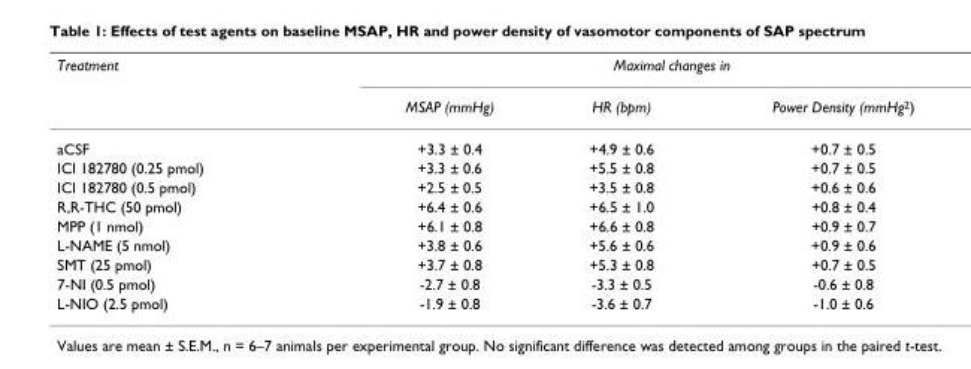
<table><thead><tr><td rowspan="2">Treatment</td><td colspan="3">Maximal changes in</td></tr><tr><td>MSAP (mmHg)</td><td>HR (bpm)</td><td>Power Density (mmHg<sup>2</sup>)</td></tr></thead><tbody><tr><td>aCSF</td><td>+3.3 ± 0.4</td><td>+4.9 ± 0.6</td><td>+0.7 ± 0.5</td></tr><tr><td>ICI 182780 (0.25 pmol)</td><td>+3.3 ± 0.6</td><td>+5.5 ± 0.8</td><td>+0.7 ± 0.5</td></tr><tr><td>ICI 182780 (0.5 pmol)</td><td>+2.5 ± 0.5</td><td>+3.5 ± 0.8</td><td>+0.6 ± 0.6</td></tr><tr><td>R,R-THC (50 pmol)</td><td>+6.4 ± 0.6</td><td>+6.5 ± 1.0</td><td>+0.8 ± 0.4</td></tr><tr><td>MPP (1 nmol)</td><td>+6.1 ± 0.8</td><td>+6.6 ± 0.8</td><td>+0.9 ± 0.7</td></tr><tr><td>L-NAME (5 nmol)</td><td>+3.8 ± 0.6</td><td>+5.6 ± 0.6</td><td>+0.9 ± 0.6</td></tr><tr><td>SMT (25 pmol)</td><td>+3.7 ± 0.8</td><td>+5.3 ± 0.8</td><td>+0.7 ± 0.5</td></tr><tr><td>7-NI (0.5 pmol)</td><td>-2.7 ± 0.8</td><td>-3.3 ± 0.5</td><td>-0.6 ± 0.8</td></tr><tr><td>L-NIO (2.5 pmol)</td><td>-1.9 ± 0.8</td><td>-3.6 ± 0.7</td><td>-1.0 ± 0.6</td></tr></tbody></table>